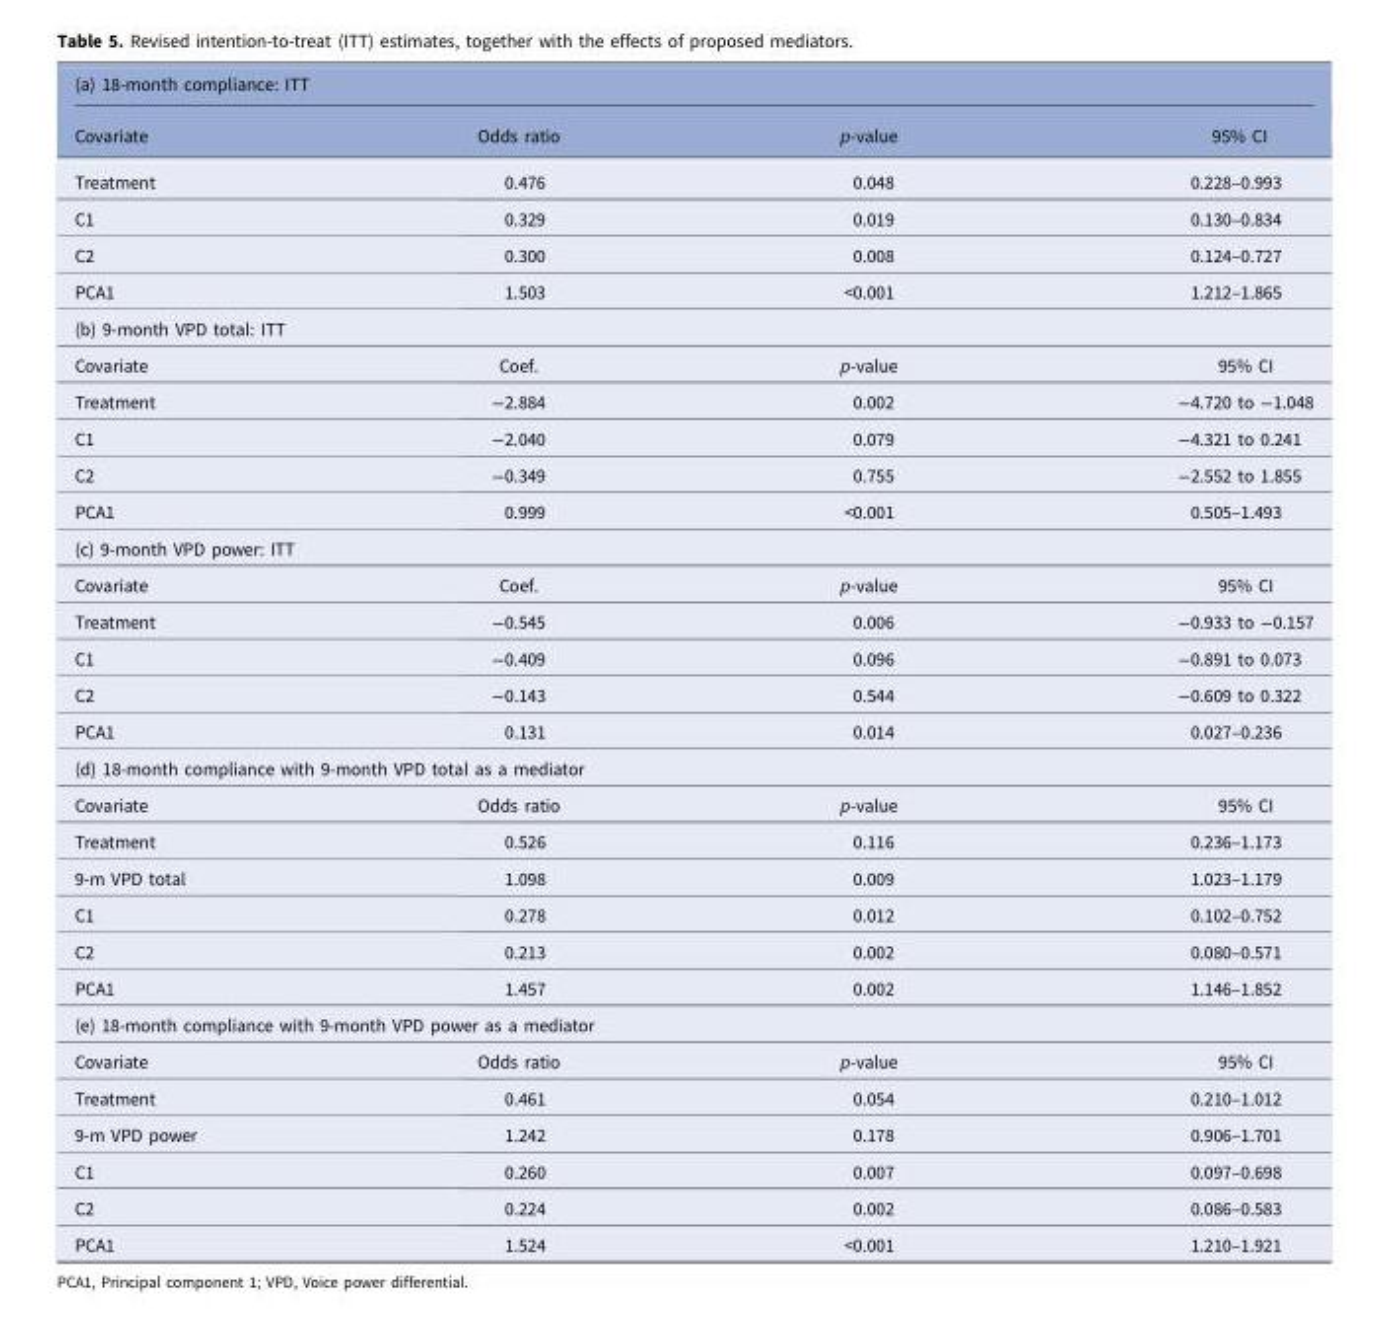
<table><thead><tr><td colspan="4">(a) 18-month compliance: ITT</td></tr><tr><td>Covariate</td><td>Odds ratio</td><td>p-value</td><td>95% CI</td></tr></thead><tbody><tr><td>Treatment</td><td>0.476</td><td>0.048</td><td>0.228–0.993</td></tr><tr><td>C1</td><td>0.329</td><td>0.019</td><td>0.130–0.834</td></tr><tr><td>C2</td><td>0.300</td><td>0.008</td><td>0.124–0.727</td></tr><tr><td>PCA1</td><td>1.503</td><td>&lt;0.001</td><td>1.212–1.865</td></tr><tr><td colspan="4">(b) 9-month VPD total: ITT</td></tr><tr><td>Covariate</td><td>Coef.</td><td>p-value</td><td>95% CI</td></tr><tr><td>Treatment</td><td>−2.884</td><td>0.002</td><td>−4.720 to −1.048</td></tr><tr><td>C1</td><td>−2.040</td><td>0.079</td><td>−4.321 to 0.241</td></tr><tr><td>C2</td><td>−0.349</td><td>0.755</td><td>−2.552 to 1.855</td></tr><tr><td>PCA1</td><td>0.999</td><td>&lt;0.001</td><td>0.505–1.493</td></tr><tr><td colspan="4">(c) 9-month VPD power: ITT</td></tr><tr><td>Covariate</td><td>Coef.</td><td>p-value</td><td>95% CI</td></tr><tr><td>Treatment</td><td>−0.545</td><td>0.006</td><td>−0.933 to −0.157</td></tr><tr><td>C1</td><td>−0.409</td><td>0.096</td><td>−0.891 to 0.073</td></tr><tr><td>C2</td><td>−0.143</td><td>0.544</td><td>−0.609 to 0.322</td></tr><tr><td>PCA1</td><td>0.131</td><td>0.014</td><td>0.027–0.236</td></tr><tr><td colspan="4">(d) 18-month compliance with 9-month VPD total as a mediator</td></tr><tr><td>Covariate</td><td>Odds ratio</td><td>p-value</td><td>95% CI</td></tr><tr><td>Treatment</td><td>0.526</td><td>0.116</td><td>0.236–1.173</td></tr><tr><td>9-m VPD total</td><td>1.098</td><td>0.009</td><td>1.023–1.179</td></tr><tr><td>C1</td><td>0.278</td><td>0.012</td><td>0.102–0.752</td></tr><tr><td>C2</td><td>0.213</td><td>0.002</td><td>0.080–0.571</td></tr><tr><td>PCA1</td><td>1.457</td><td>0.002</td><td>1.146–1.852</td></tr><tr><td colspan="4">(e) 18-month compliance with 9-month VPD power as a mediator</td></tr><tr><td>Covariate</td><td>Odds ratio</td><td>p-value</td><td>95% CI</td></tr><tr><td>Treatment</td><td>0.461</td><td>0.054</td><td>0.210–1.012</td></tr><tr><td>9-m VPD power</td><td>1.242</td><td>0.178</td><td>0.906–1.701</td></tr><tr><td>C1</td><td>0.260</td><td>0.007</td><td>0.097–0.698</td></tr><tr><td>C2</td><td>0.224</td><td>0.002</td><td>0.086–0.583</td></tr><tr><td>PCA1</td><td>1.524</td><td>&lt;0.001</td><td>1.210–1.921</td></tr></tbody></table>